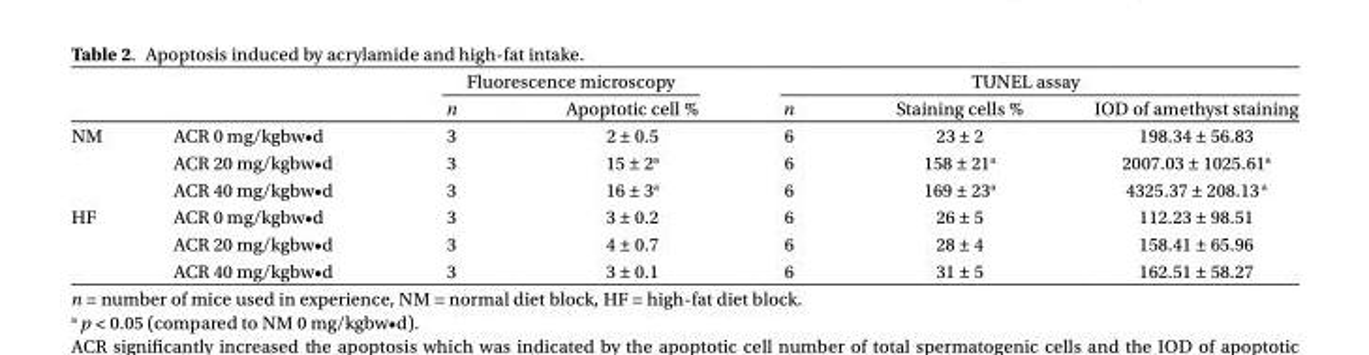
<table><thead><tr><td rowspan="2"></td><td rowspan="2"></td><td colspan="2">Fluorescence microscopy</td><td colspan="3">TUNEL assay</td></tr><tr><td>n</td><td>Apoptotic cell %</td><td>n</td><td>Staining cells %</td><td>IOD of amethyst staining</td></tr></thead><tbody><tr><td rowspan="3">NM</td><td>ACR 0 mg/kgbw•d</td><td>3</td><td>2 ± 0.5</td><td>6</td><td>23 ± 2</td><td>198.34 ± 56.83</td></tr><tr><td>ACR 20 mg/kgbw•d</td><td>3</td><td>15 ± 2<sup>a</sup></td><td>6</td><td>158 ± 21<sup>a</sup></td><td>2007.03 ± 1025.61<sup>a</sup></td></tr><tr><td>ACR 40 mg/kgbw•d</td><td>3</td><td>16 ± 3<sup>a</sup></td><td>6</td><td>169 ± 23<sup>a</sup></td><td>4325.37 ± 208.13 <sup>a</sup></td></tr><tr><td rowspan="3">HF</td><td>ACR 0 mg/kgbw•d</td><td>3</td><td>3 ± 0.2</td><td>6</td><td>26 ± 5</td><td>112.23 ± 98.51</td></tr><tr><td>ACR 20 mg/kgbw•d</td><td>3</td><td>4 ± 0.7</td><td>6</td><td>28 ± 4</td><td>158.41 ± 65.96</td></tr><tr><td>ACR 40 mg/kgbw•d</td><td>3</td><td>3 ± 0.1</td><td>6</td><td>31 ± 5</td><td>162.51 ± 58.27</td></tr></tbody></table>